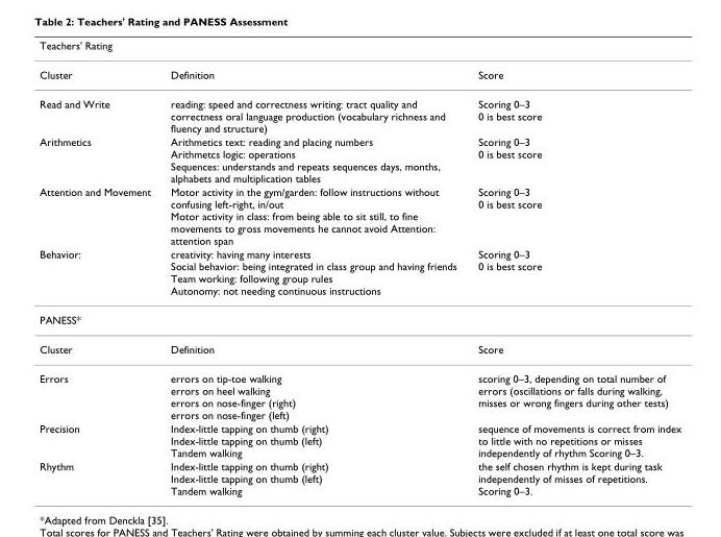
<table><thead><tr><td colspan="3">Teachers&#x27; Rating</td></tr><tr><td>Cluster</td><td>Definition</td><td>Score</td></tr></thead><tbody><tr><td>Read and Write</td><td>reading: speed and correctness writing: tract quality and correctness oral language production (vocabulary richness and fluency and structure)</td><td>Scoring 0–3 0 is best score</td></tr><tr><td>Arithmetics</td><td>Arithmetics text: reading and placing numbers Arithmetcs logic: operations Sequences: understands and repeats sequences days, months, alphabets and multiplication tables</td><td>Scoring 0–3 0 is best score</td></tr><tr><td>Attention and Movement</td><td>Motor activity in the gym/garden: follow instructions without confusing left-right, in/out Motor activity in class: from being able to sit still, to fine movements to gross movements he cannot avoid Attention: attention span</td><td>Scoring 0–3 0 is best score</td></tr><tr><td>Behavior:</td><td>creativity: having many interests Social behavior: being integrated in class group and having friends Team working: following group rules Autonomy: not needing continuous instructions</td><td>Scoring 0–3 0 is best score</td></tr><tr><td colspan="3">PANESS*</td></tr><tr><td>Cluster</td><td>Definition</td><td>Score</td></tr><tr><td>Errors</td><td>errors on tip-toe walking errors on heel walking errors on nose-finger (right) errors on nose-finger (left)</td><td>scoring 0–3, depending on total number of errors (oscillations or falls during walking, misses or wrong fingers during other tests)</td></tr><tr><td>Precision</td><td>Index-little tapping on thumb (right) Index-little tapping on thumb (left) Tandem walking</td><td>sequence of movements is correct from index to little with no repetitions or misses independently of rhythm Scoring 0–3.</td></tr><tr><td>Rhythm</td><td>Index-little tapping on thumb (right) Index-little tapping on thumb (left) Tandem walking</td><td>the self chosen rhythm is kept during task independently of misses of repetitions. Scoring 0–3.</td></tr></tbody></table>